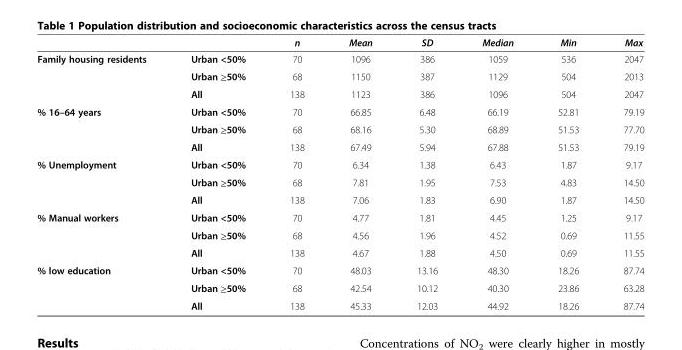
<table><thead><tr><td></td><td></td><td>n</td><td>Mean</td><td>SD</td><td>Median</td><td>Min</td><td>Max</td></tr></thead><tbody><tr><td rowspan="3">Family housing residents</td><td>Urban &lt;50%</td><td>70</td><td>1096</td><td>386</td><td>1059</td><td>536</td><td>2047</td></tr><tr><td>Urban ≥50%</td><td>68</td><td>1150</td><td>387</td><td>1129</td><td>504</td><td>2013</td></tr><tr><td>All</td><td>138</td><td>1123</td><td>386</td><td>1096</td><td>504</td><td>2047</td></tr><tr><td rowspan="3">% 16–64 years</td><td>Urban &lt;50%</td><td>70</td><td>66.85</td><td>6.48</td><td>66.19</td><td>52.81</td><td>79.19</td></tr><tr><td>Urban ≥50%</td><td>68</td><td>68.16</td><td>5.30</td><td>68.89</td><td>51.53</td><td>77.70</td></tr><tr><td>All</td><td>138</td><td>67.49</td><td>5.94</td><td>67.88</td><td>51.53</td><td>79.19</td></tr><tr><td rowspan="3">% Unemployment</td><td>Urban &lt;50%</td><td>70</td><td>6.34</td><td>1.38</td><td>6.43</td><td>1.87</td><td>9.17</td></tr><tr><td>Urban ≥50%</td><td>68</td><td>7.81</td><td>1.95</td><td>7.53</td><td>4.83</td><td>14.50</td></tr><tr><td>All</td><td>138</td><td>7.06</td><td>1.83</td><td>6.90</td><td>1.87</td><td>14.50</td></tr><tr><td rowspan="3">% Manual workers</td><td>Urban &lt;50%</td><td>70</td><td>4.77</td><td>1.81</td><td>4.45</td><td>1.25</td><td>9.17</td></tr><tr><td>Urban ≥50%</td><td>68</td><td>4.56</td><td>1.96</td><td>4.52</td><td>0.69</td><td>11.55</td></tr><tr><td>All</td><td>138</td><td>4.67</td><td>1.88</td><td>4.50</td><td>0.69</td><td>11.55</td></tr><tr><td rowspan="3">% low education</td><td>Urban &lt;50%</td><td>70</td><td>48.03</td><td>13.16</td><td>48.30</td><td>18.26</td><td>87.74</td></tr><tr><td>Urban ≥50%</td><td>68</td><td>42.54</td><td>10.12</td><td>40.30</td><td>23.86</td><td>63.28</td></tr><tr><td>All</td><td>138</td><td>45.33</td><td>12.03</td><td>44.92</td><td>18.26</td><td>87.74</td></tr></tbody></table>